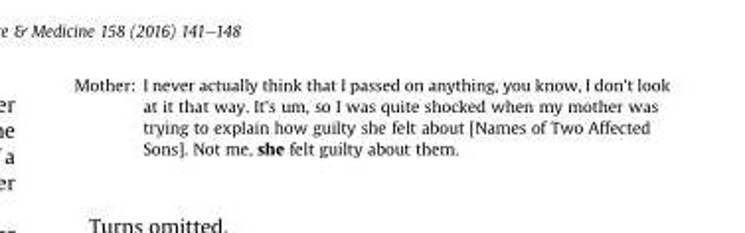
<table><tbody><tr><td>Mother:</td><td>I never actually think that I passed on anything, you know, I don&#x27;t look at it that way. It&#x27;s um, so I was quite shocked when my mother was trying to explain how guilty she felt about [Names of Two Affected Sons]. Not me, she felt guilty about them.</td></tr></tbody></table>